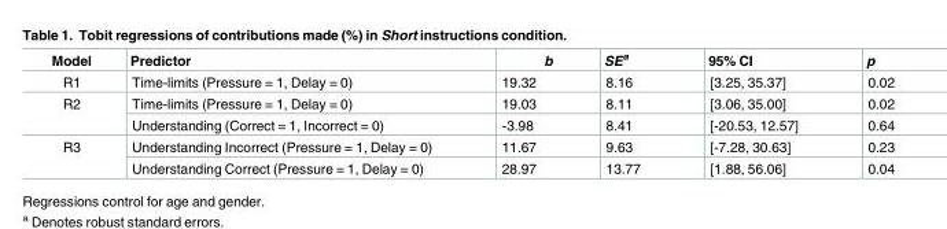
<table><thead><tr><td>Model</td><td>Predictor</td><td>b</td><td>SE<sup>a</sup></td><td>95% CI</td><td>p</td></tr></thead><tbody><tr><td>R1</td><td>Time-limits (Pressure = 1, Delay = 0)</td><td>19.32</td><td>8.16</td><td>[3.25, 35.37]</td><td>0.02</td></tr><tr><td rowspan="2">R2</td><td>Time-limits (Pressure = 1, Delay = 0)</td><td>19.03</td><td>8.11</td><td>[3.06, 35.00]</td><td>0.02</td></tr><tr><td>Understanding (Correct = 1, Incorrect = 0)</td><td>-3.98</td><td>8.41</td><td>[-20.53, 12.57]</td><td>0.64</td></tr><tr><td rowspan="2">R3</td><td>Understanding Incorrect (Pressure = 1, Delay = 0)</td><td>11.67</td><td>9.63</td><td>[-7.28, 30.63]</td><td>0.23</td></tr><tr><td>Understanding Correct (Pressure = 1, Delay = 0)</td><td>28.97</td><td>13.77</td><td>[1.88, 56.06]</td><td>0.04</td></tr></tbody></table>